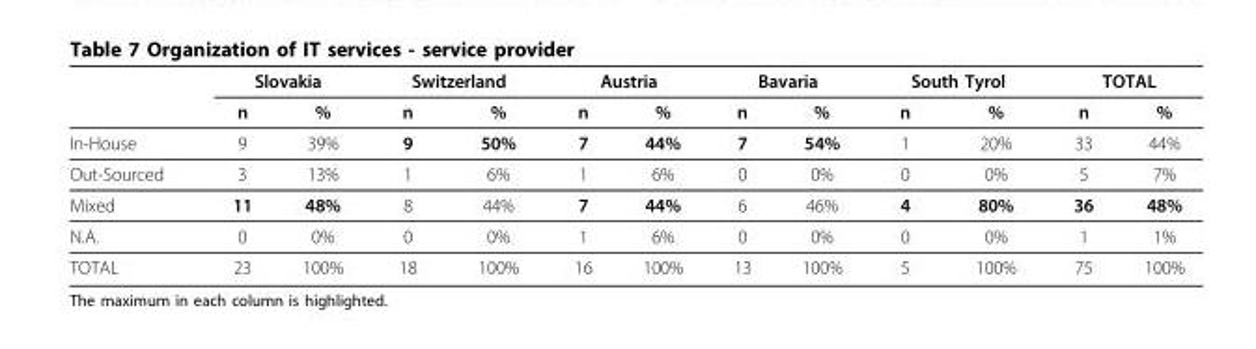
<table><thead><tr><td rowspan="2"></td><td colspan="2">Slovakia</td><td colspan="2">Switzerland</td><td colspan="2">Austria</td><td colspan="2">Bavaria</td><td colspan="2">South Tyrol</td><td colspan="2">TOTAL</td></tr><tr><td>n</td><td>%</td><td>n</td><td>%</td><td>n</td><td>%</td><td>n</td><td>%</td><td>n</td><td>%</td><td>n</td><td>%</td></tr></thead><tbody><tr><td>In-House</td><td>9</td><td>39%</td><td>9</td><td>50%</td><td>7</td><td>44%</td><td>7</td><td>54%</td><td>1</td><td>20%</td><td>33</td><td>44%</td></tr><tr><td>Out-Sourced</td><td>3</td><td>13%</td><td>1</td><td>6%</td><td>1</td><td>6%</td><td>0</td><td>0%</td><td>0</td><td>0%</td><td>5</td><td>7%</td></tr><tr><td>Mixed</td><td>11</td><td>48%</td><td>8</td><td>44%</td><td>7</td><td>44%</td><td>6</td><td>46%</td><td>4</td><td>80%</td><td>36</td><td>48%</td></tr><tr><td>N.A.</td><td>0</td><td>0%</td><td>0</td><td>0%</td><td>1</td><td>6%</td><td>0</td><td>0%</td><td>0</td><td>0%</td><td>1</td><td>1%</td></tr><tr><td>TOTAL</td><td>23</td><td>100%</td><td>18</td><td>100%</td><td>16</td><td>100%</td><td>13</td><td>100%</td><td>5</td><td>100%</td><td>75</td><td>100%</td></tr></tbody></table>